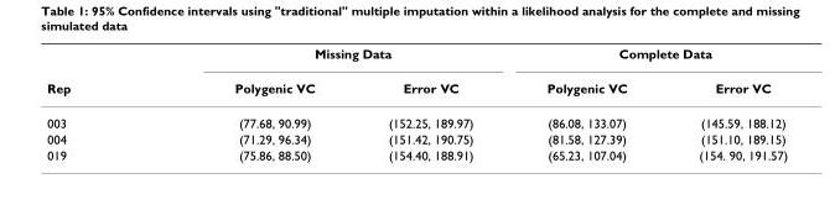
<table><thead><tr><td rowspan="2">Rep</td><td colspan="2">Missing Data</td><td colspan="2">Complete Data</td></tr><tr><td>Polygenic VC</td><td>Error VC</td><td>Polygenic VC</td><td>Error VC</td></tr></thead><tbody><tr><td>003</td><td>(77.68, 90.99)</td><td>(152.25, 189.97)</td><td>(86.08, 133.07)</td><td>(145.59, 188.12)</td></tr><tr><td>004</td><td>(71.29, 96.34)</td><td>(151.42, 190.75)</td><td>(81.58, 127.39)</td><td>(151.10, 189.15)</td></tr><tr><td>019</td><td>(75.86, 88.50)</td><td>(154.40, 188.91)</td><td>(65.23, 107.04)</td><td>(154. 90, 191.57)</td></tr></tbody></table>